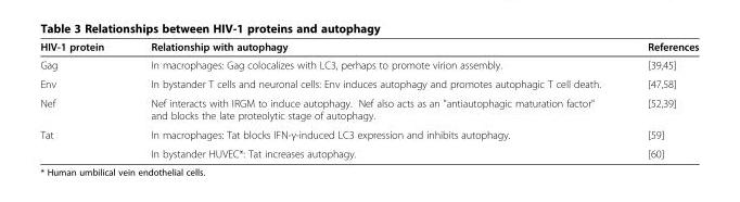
<table><thead><tr><td>HIV-1 protein</td><td>Relationship with autophagy</td><td>References</td></tr></thead><tbody><tr><td>Gag</td><td>In macrophages: Gag colocalizes with LC3, perhaps to promote virion assembly.</td><td>[39,45]</td></tr><tr><td>Env</td><td>In bystander T cells and neuronal cells: Env induces autophagy and promotes autophagic T cell death.</td><td>[47,58]</td></tr><tr><td>Nef</td><td>Nef interacts with IRGM to induce autophagy. Nef also acts as an &quot;antiautophagic maturation factor&quot; and blocks the late proteolytic stage of autophagy.</td><td>[52,39]</td></tr><tr><td rowspan="2">Tat</td><td>In macrophages: Tat blocks IFN-γ-induced LC3 expression and inhibits autophagy.</td><td>[59]</td></tr><tr><td>In bystander HUVEC*: Tat increases autophagy.</td><td>[60]</td></tr></tbody></table>